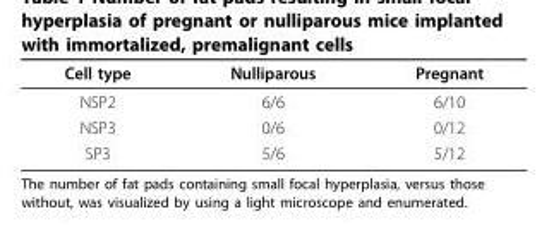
<table><thead><tr><td>Cell type</td><td>Nulliparous</td><td>Pregnant</td></tr></thead><tbody><tr><td>NSP2</td><td>6/6</td><td>6/10</td></tr><tr><td>NSP3</td><td>0/6</td><td>0/12</td></tr><tr><td>SP3</td><td>5/6</td><td>5/12</td></tr></tbody></table>